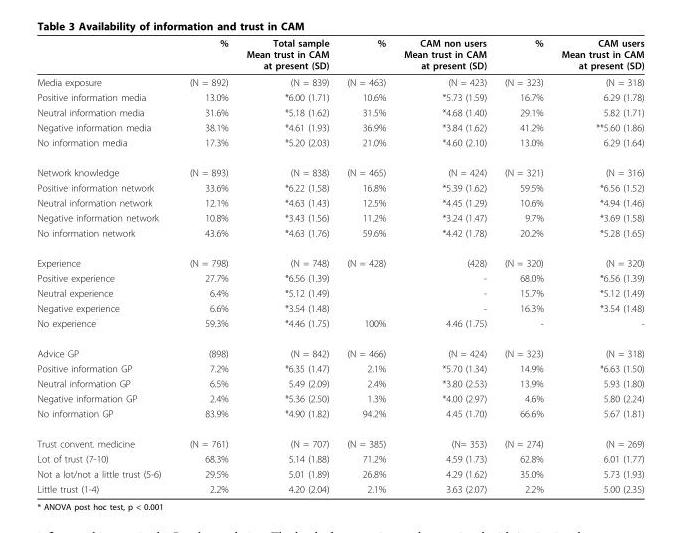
<table><thead><tr><td></td><td>%</td><td>Total sample Mean trust in CAM at present (SD)</td><td>%</td><td>CAM non users Mean trust in CAM at present (SD)</td><td>%</td><td>CAM users Mean trust in CAM at present (SD)</td></tr></thead><tbody><tr><td>Media exposure</td><td>(N = 892)</td><td>(N = 839)</td><td>(N = 463)</td><td>(N = 423)</td><td>(N = 323)</td><td>(N = 318)</td></tr><tr><td>Positive information media</td><td>13.0%</td><td>*6.00 (1.71)</td><td>10.6%</td><td>*5.73 (1.59)</td><td>16.7%</td><td>6.29 (1.78)</td></tr><tr><td>Neutral information media</td><td>31.6%</td><td>*5.18 (1.62)</td><td>31.5%</td><td>*4.68 (1.40)</td><td>29.1%</td><td>5.82 (1.71)</td></tr><tr><td>Negative information media</td><td>38.1%</td><td>*4.61 (1.93)</td><td>36.9%</td><td>*3.84 (1.62)</td><td>41.2%</td><td>**5.60 (1.86)</td></tr><tr><td>No information media</td><td>17.3%</td><td>*5.20 (2.03)</td><td>21.0%</td><td>*4.60 (2.10)</td><td>13.0%</td><td>6.29 (1.64)</td></tr><tr><td>Network knowledge</td><td>(N = 893)</td><td>(N = 838)</td><td>(N = 465)</td><td>(N = 424)</td><td>(N = 321)</td><td>(N = 316)</td></tr><tr><td>Positive information network</td><td>33.6%</td><td>*6.22 (1.58)</td><td>16.8%</td><td>*5.39 (1.62)</td><td>59.5%</td><td>*6.56 (1.52)</td></tr><tr><td>Neutral information network</td><td>12.1%</td><td>*4.63 (1.43)</td><td>12.5%</td><td>*4.45 (1.29)</td><td>10.6%</td><td>*4.94 (1.46)</td></tr><tr><td>Negative information network</td><td>10.8%</td><td>*3.43 (1.56)</td><td>11.2%</td><td>*3.24 (1.47)</td><td>9.7%</td><td>*3.69 (1.58)</td></tr><tr><td>No information network</td><td>43.6%</td><td>*4.63 (1.76)</td><td>59.6%</td><td>*4.42 (1.78)</td><td>20.2%</td><td>*5.28 (1.65)</td></tr><tr><td>Experience</td><td>(N = 798)</td><td>(N = 748)</td><td>(N = 428)</td><td>(428)</td><td>(N = 320)</td><td>(N = 320)</td></tr><tr><td>Positive experience</td><td>27.7%</td><td>*6.56 (1.39)</td><td></td><td>-</td><td>68.0%</td><td>*6.56 (1.39)</td></tr><tr><td>Neutral experience</td><td>6.4%</td><td>*5.12 (1.49)</td><td></td><td>-</td><td>15.7%</td><td>*5.12 (1.49)</td></tr><tr><td>Negative experience</td><td>6.6%</td><td>*3.54 (1.48)</td><td></td><td>-</td><td>16.3%</td><td>*3.54 (1.48)</td></tr><tr><td>No experience</td><td>59.3%</td><td>*4.46 (1.75)</td><td>100%</td><td>4.46 (1.75)</td><td>-</td><td>-</td></tr><tr><td>Advice GP</td><td>(898)</td><td>(N = 842)</td><td>(N = 466)</td><td>(N = 424)</td><td>(N = 323)</td><td>(N = 318)</td></tr><tr><td>Positive information GP</td><td>7.2%</td><td>*6.35 (1.47)</td><td>2.1%</td><td>*5.70 (1.34)</td><td>14.9%</td><td>*6.63 (1.50)</td></tr><tr><td>Neutral information GP</td><td>6.5%</td><td>5.49 (2.09)</td><td>2.4%</td><td>*3.80 (2.53)</td><td>13.9%</td><td>5.93 (1.80)</td></tr><tr><td>Negative information GP</td><td>2.4%</td><td>*5.36 (2.50)</td><td>1.3%</td><td>*4.00 (2.97)</td><td>4.6%</td><td>5.80 (2.24)</td></tr><tr><td>No information GP</td><td>83.9%</td><td>*4.90 (1.82)</td><td>94.2%</td><td>4.45 (1.70)</td><td>66.6%</td><td>5.67 (1.81)</td></tr><tr><td>Trust convent. medicine</td><td>(N = 761)</td><td>(N = 707)</td><td>(N = 385)</td><td>(N= 353)</td><td>(N = 274)</td><td>(N = 269)</td></tr><tr><td>Lot of trust (7-10)</td><td>68.3%</td><td>5.14 (1.88)</td><td>71.2%</td><td>4.59 (1.73)</td><td>62.8%</td><td>6.01 (1.77)</td></tr><tr><td>Not a lot/not a little trust (5-6)</td><td>29.5%</td><td>5.01 (1.89)</td><td>26.8%</td><td>4.29 (1.62)</td><td>35.0%</td><td>5.73 (1.93)</td></tr><tr><td>Little trust (1-4)</td><td>2.2%</td><td>4.20 (2.04)</td><td>2.1%</td><td>3.63 (2.07)</td><td>2.2%</td><td>5.00 (2.35)</td></tr></tbody></table>